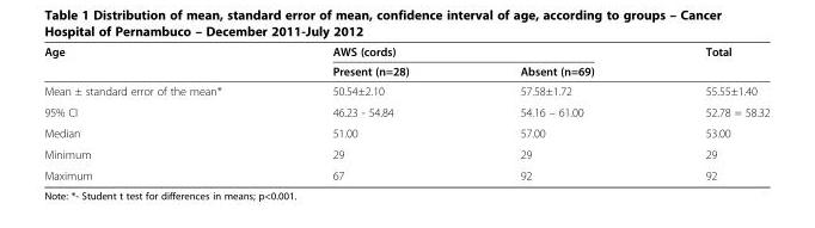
<table><thead><tr><td rowspan="2">Age</td><td colspan="2">AWS (cords)</td><td rowspan="2">Total</td></tr><tr><td>Present (n=28)</td><td>Absent (n=69)</td></tr></thead><tbody><tr><td>Mean ± standard error of the mean*</td><td>50.54±2.10</td><td>57.58±1.72</td><td>55.55±1.40</td></tr><tr><td>95% CI</td><td>46.23 - 54.84</td><td>54.16 – 61.00</td><td>52.78 = 58.32</td></tr><tr><td>Median</td><td>51.00</td><td>57.00</td><td>53.00</td></tr><tr><td>Minimum</td><td>29</td><td>29</td><td>29</td></tr><tr><td>Maximum</td><td>67</td><td>92</td><td>92</td></tr></tbody></table>